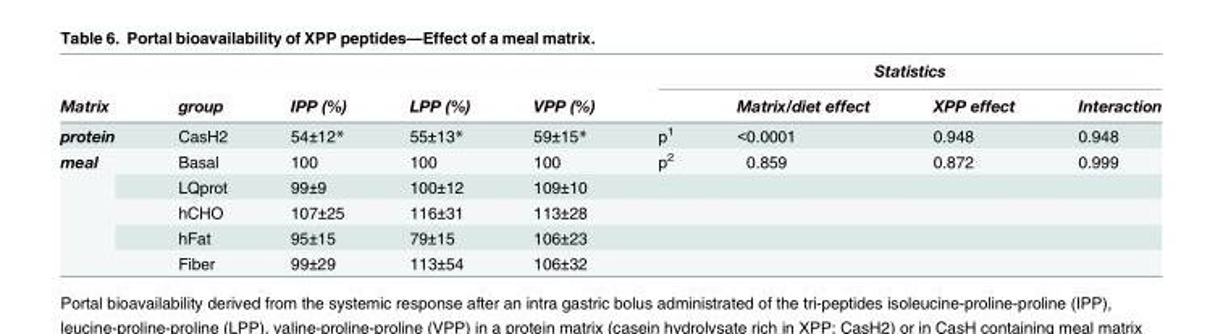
<table><thead><tr><td rowspan="2">Matrix</td><td rowspan="2">group</td><td rowspan="2">IPP (%)</td><td rowspan="2">LPP (%)</td><td rowspan="2">VPP (%)</td><td colspan="4">Statistics</td></tr><tr><td></td><td>Matrix/diet effect</td><td>XPP effect</td><td>Interaction</td></tr></thead><tbody><tr><td>protein</td><td>CasH2</td><td>54±12*</td><td>55±13*</td><td>59±15*</td><td>p<sup>1</sup></td><td>&lt;0.0001</td><td>0.948</td><td>0.948</td></tr><tr><td rowspan="5">meal</td><td>Basal</td><td>100</td><td>100</td><td>100</td><td>p<sup>2</sup></td><td>0.859</td><td>0.872</td><td>0.999</td></tr><tr><td>LQprot</td><td>99±9</td><td>100±12</td><td>109±10</td><td></td><td></td><td></td><td></td></tr><tr><td>hCHO</td><td>107±25</td><td>116±31</td><td>113±28</td><td></td><td></td><td></td><td></td></tr><tr><td>hFat</td><td>95±15</td><td>79±15</td><td>106±23</td><td></td><td></td><td></td><td></td></tr><tr><td>Fiber</td><td>99±29</td><td>113±54</td><td>106±32</td><td></td><td></td><td></td><td></td></tr></tbody></table>